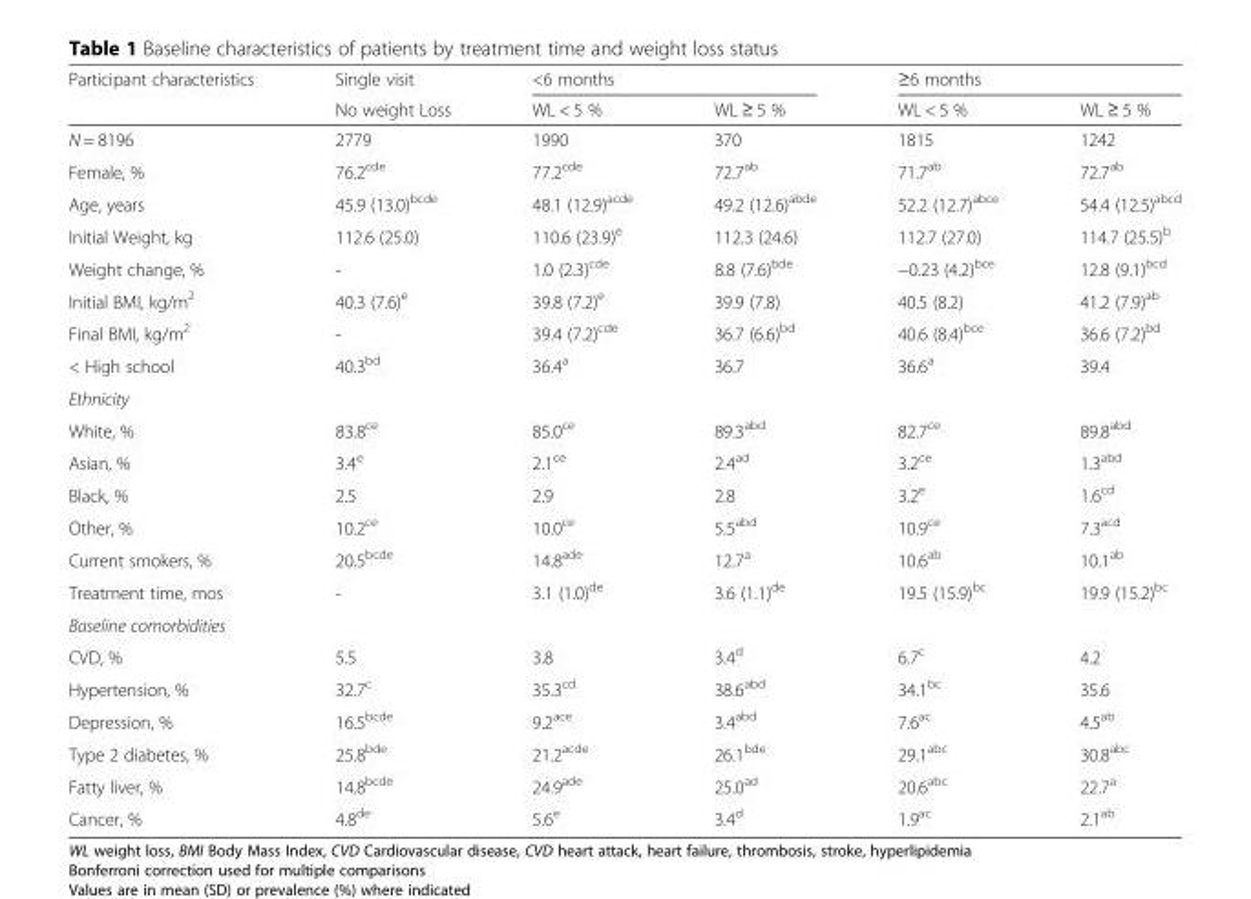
<table><thead><tr><td rowspan="2">Participant characteristics</td><td rowspan="2">Single visit No weight Loss</td><td colspan="2">&lt;6 months</td><td colspan="2">≥6 months</td></tr><tr><td>WL &lt; 5 %</td><td>WL ≥ 5 %</td><td>WL &lt; 5 %</td><td>WL ≥ 5 %</td></tr></thead><tbody><tr><td>N = 8196</td><td>2779</td><td>1990</td><td>370</td><td>1815</td><td>1242</td></tr><tr><td>Female, %</td><td>76.2<sup>cde</sup></td><td>77.2<sup>cde</sup></td><td>72.7<sup>ab</sup></td><td>71.7<sup>ab</sup></td><td>72.7<sup>ab</sup></td></tr><tr><td>Age, years</td><td>45.9 (13.0)<sup>bcde</sup></td><td>48.1 (12.9)<sup>acde</sup></td><td>49.2 (12.6)<sup>abde</sup></td><td>52.2 (12.7)<sup>abce</sup></td><td>54.4 (12.5)<sup>abcd</sup></td></tr><tr><td>Initial Weight, kg</td><td>112.6 (25.0)</td><td>110.6 (23.9)<sup>e</sup></td><td>112.3 (24.6)</td><td>112.7 (27.0)</td><td>114.7 (25.5)<sup>b</sup></td></tr><tr><td>Weight change, %</td><td>-</td><td>1.0 (2.3)<sup>cde</sup></td><td>8.8 (7.6)<sup>bde</sup></td><td>−0.23 (4.2)<sup>bce</sup></td><td>12.8 (9.1)<sup>bcd</sup></td></tr><tr><td>Initial BMI, kg/m<sup>2</sup></td><td>40.3 (7.6)<sup>e</sup></td><td>39.8 (7.2)<sup>e</sup></td><td>39.9 (7.8)</td><td>40.5 (8.2)</td><td>41.2 (7.9)<sup>ab</sup></td></tr><tr><td>Final BMI, kg/m<sup>2</sup></td><td>-</td><td>39.4 (7.2)<sup>cde</sup></td><td>36.7 (6.6)<sup>bd</sup></td><td>40.6 (8.4)<sup>bce</sup></td><td>36.6 (7.2)<sup>bd</sup></td></tr><tr><td>&lt; High school</td><td>40.3<sup>bd</sup></td><td>36.4<sup>a</sup></td><td>36.7</td><td>36.6<sup>a</sup></td><td>39.4</td></tr><tr><td colspan="6">Ethnicity</td></tr><tr><td>White, %</td><td>83.8<sup>ce</sup></td><td>85.0<sup>ce</sup></td><td>89.3<sup>abd</sup></td><td>82.7<sup>ce</sup></td><td>89.8<sup>abd</sup></td></tr><tr><td>Asian, %</td><td>3.4<sup>e</sup></td><td>2.1<sup>ce</sup></td><td>2.4<sup>ad</sup></td><td>3.2<sup>ce</sup></td><td>1.3<sup>abd</sup></td></tr><tr><td>Black, %</td><td>2.5</td><td>2.9</td><td>2.8</td><td>3.2<sup>e</sup></td><td>1.6<sup>cd</sup></td></tr><tr><td>Other, %</td><td>10.2<sup>ce</sup></td><td>10.0<sup>ce</sup></td><td>5.5<sup>abd</sup></td><td>10.9<sup>ce</sup></td><td>7.3<sup>acd</sup></td></tr><tr><td>Current smokers, %</td><td>20.5<sup>bcde</sup></td><td>14.8<sup>ade</sup></td><td>12.7<sup>a</sup></td><td>10.6<sup>ab</sup></td><td>10.1<sup>ab</sup></td></tr><tr><td>Treatment time, mos</td><td>-</td><td>3.1 (1.0)<sup>de</sup></td><td>3.6 (1.1)<sup>de</sup></td><td>19.5 (15.9)<sup>bc</sup></td><td>19.9 (15.2)<sup>bc</sup></td></tr><tr><td colspan="6">Baseline comorbidities</td></tr><tr><td>CVD, %</td><td>5.5</td><td>3.8</td><td>3.4<sup>d</sup></td><td>6.7<sup>c</sup></td><td>4.2</td></tr><tr><td>Hypertension, %</td><td>32.7<sup>c</sup></td><td>35.3<sup>cd</sup></td><td>38.6<sup>abd</sup></td><td>34.1<sup>bc</sup></td><td>35.6</td></tr><tr><td>Depression, %</td><td>16.5<sup>bcde</sup></td><td>9.2<sup>ace</sup></td><td>3.4<sup>abd</sup></td><td>7.6<sup>ac</sup></td><td>4.5<sup>ab</sup></td></tr><tr><td>Type 2 diabetes, %</td><td>25.8<sup>bde</sup></td><td>21.2<sup>acde</sup></td><td>26.1<sup>bde</sup></td><td>29.1<sup>abc</sup></td><td>30.8<sup>abc</sup></td></tr><tr><td>Fatty liver, %</td><td>14.8<sup>bcde</sup></td><td>24.9<sup>ade</sup></td><td>25.0<sup>ad</sup></td><td>20.6<sup>abc</sup></td><td>22.7<sup>a</sup></td></tr><tr><td>Cancer, %</td><td>4.8<sup>de</sup></td><td>5.6<sup>e</sup></td><td>3.4<sup>d</sup></td><td>1.9<sup>ac</sup></td><td>2.1<sup>ab</sup></td></tr></tbody></table>